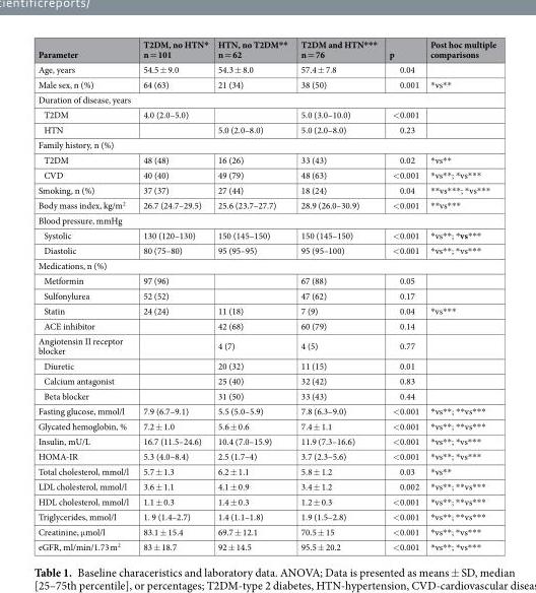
<table><thead><tr><td>Parameter</td><td>T2DM, no HTN* n = 101</td><td>HTN, no T2DM** n = 62</td><td>T2DM and HTN*** n = 76</td><td>p</td><td>Post hoc multiple comparisons</td></tr></thead><tbody><tr><td>Age, years</td><td>54.5 ± 9.0</td><td>54.3 ± 8.0</td><td>57.4 ± 7.8</td><td>0.04</td><td></td></tr><tr><td>Male sex, n (%)</td><td>64 (63)</td><td>21 (34)</td><td>38 (50)</td><td>0.001</td><td>*vs**</td></tr><tr><td colspan="6">Duration of disease, years</td></tr><tr><td>T2DM</td><td>4.0 (2.0–5.0)</td><td></td><td>5.0 (3.0–10.0)</td><td>&lt;0.001</td><td></td></tr><tr><td>HTN</td><td></td><td>5.0 (2.0–8.0)</td><td>5.0 (2.0–8.0)</td><td>0.23</td><td></td></tr><tr><td colspan="6">Family history, n (%)</td></tr><tr><td>T2DM</td><td>48 (48)</td><td>16 (26)</td><td>33 (43)</td><td>0.02</td><td>*vs**</td></tr><tr><td>CVD</td><td>40 (40)</td><td>49 (79)</td><td>48 (63)</td><td>&lt;0.001</td><td>*vs**; *vs***</td></tr><tr><td>Smoking, n (%)</td><td>37 (37)</td><td>27 (44)</td><td>18 (24)</td><td>0.04</td><td>**vs***; *vs***</td></tr><tr><td>Body mass index, kg/m<sup>2</sup></td><td>26.7 (24.7–29.5)</td><td>25.6 (23.7–27.7)</td><td>28.9 (26.0–30.9)</td><td>&lt;0.001</td><td>**vs***</td></tr><tr><td colspan="6">Blood pressure, mmHg</td></tr><tr><td>Systolic</td><td>130 (120–130)</td><td>150 (145–150)</td><td>150 (145–150)</td><td>&lt;0.001</td><td>*vs**; *vs***</td></tr><tr><td>Diastolic</td><td>80 (75–80)</td><td>95 (95–95)</td><td>95 (95–100)</td><td>&lt;0.001</td><td>*vs**; *vs***</td></tr><tr><td colspan="6">Medications, n (%)</td></tr><tr><td>Metformin</td><td>97 (96)</td><td></td><td>67 (88)</td><td>0.05</td><td></td></tr><tr><td>Sulfonylurea</td><td>52 (52)</td><td></td><td>47 (62)</td><td>0.17</td><td></td></tr><tr><td>Statin</td><td>24 (24)</td><td>11 (18)</td><td>7 (9)</td><td>0.04</td><td>*vs***</td></tr><tr><td>ACE inhibitor</td><td></td><td>42 (68)</td><td>60 (79)</td><td>0.14</td><td></td></tr><tr><td>Angiotensin II receptor blocker</td><td></td><td>4 (7)</td><td>4 (5)</td><td>0.77</td><td></td></tr><tr><td>Diuretic</td><td></td><td>20 (32)</td><td>11 (15)</td><td>0.01</td><td></td></tr><tr><td>Calcium antagonist</td><td></td><td>25 (40)</td><td>32 (42)</td><td>0.83</td><td></td></tr><tr><td>Beta blocker</td><td></td><td>31 (50)</td><td>33 (43)</td><td>0.44</td><td></td></tr><tr><td>Fasting glucose, mmol/l</td><td>7.9 (6.7–9.1)</td><td>5.5 (5.0–5.9)</td><td>7.8 (6.3–9.0)</td><td>&lt;0.001</td><td>*vs**; **vs***</td></tr><tr><td>Glycated hemoglobin, %</td><td>7.2 ± 1.0</td><td>5.6 ± 0.6</td><td>7.4 ± 1.1</td><td>&lt;0.001</td><td>*vs**; **vs***</td></tr><tr><td>Insulin, mU/L</td><td>16.7 (11.5–24.6)</td><td>10.4 (7.0–15.9)</td><td>11.9 (7.3–16.6)</td><td>&lt;0.001</td><td>*vs**; *vs***</td></tr><tr><td>HOMA-IR</td><td>5.3 (4.0–8.4)</td><td>2.5 (1.7–4)</td><td>3.7 (2.3–5.6)</td><td>&lt;0.001</td><td>*vs**; *vs***</td></tr><tr><td>Total cholesterol, mmol/l</td><td>5.7 ± 1.3</td><td>6.2 ± 1.1</td><td>5.8 ± 1.2</td><td>0.03</td><td>*vs**</td></tr><tr><td>LDL cholesterol, mmol/l</td><td>3.6 ± 1.1</td><td>4.1 ± 0.9</td><td>3.4 ± 1.2</td><td>0.002</td><td>*vs**; **vs***</td></tr><tr><td>HDL cholesterol, mmol/l</td><td>1.1 ± 0.3</td><td>1.4 ± 0.3</td><td>1.2 ± 0.3</td><td>&lt;0.001</td><td>*vs**; **vs***</td></tr><tr><td>Triglycerides, mmol/l</td><td>1. 9 (1.4–2.7)</td><td>1.4 (1.1–1.8)</td><td>1.9 (1.5–2.8)</td><td>&lt;0.001</td><td>*vs**; **vs***</td></tr><tr><td>Creatinine, μmol/l</td><td>83.1 ± 15.4</td><td>69.7 ± 12.1</td><td>70.5 ± 15</td><td>&lt;0.001</td><td>*vs**; *vs***</td></tr><tr><td>eGFR, ml/min/1.73 m<sup>2</sup></td><td>83 ± 18.7</td><td>92 ± 14.5</td><td>95.5 ± 20.2</td><td>&lt;0.001</td><td>*vs**; *vs***</td></tr></tbody></table>